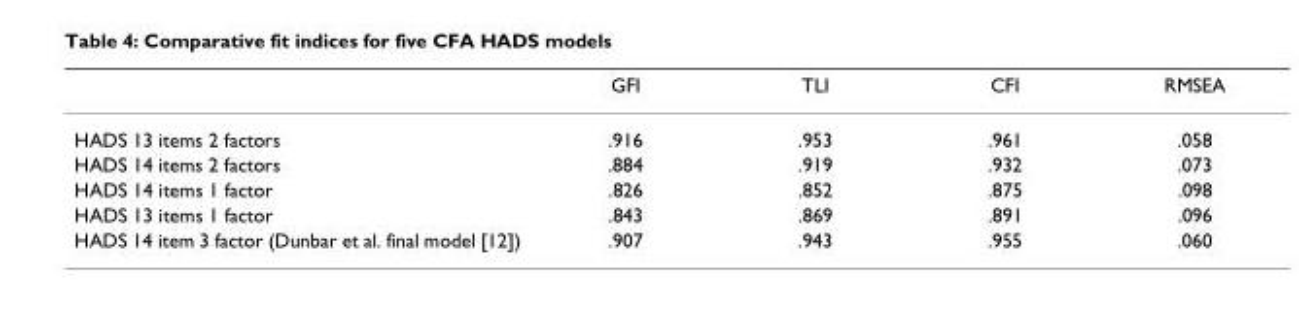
<table><thead><tr><td></td><td>GFI</td><td>TLI</td><td>CFI</td><td>RMSEA</td></tr></thead><tbody><tr><td>HADS 13 items 2 factors</td><td>.916</td><td>.953</td><td>.961</td><td>.058</td></tr><tr><td>HADS 14 items 2 factors</td><td>.884</td><td>.919</td><td>.932</td><td>.073</td></tr><tr><td>HADS 14 items 1 factor</td><td>.826</td><td>.852</td><td>.875</td><td>.098</td></tr><tr><td>HADS 13 items 1 factor</td><td>.843</td><td>.869</td><td>.891</td><td>.096</td></tr><tr><td>HADS 14 item 3 factor (Dunbar et al. final model [12])</td><td>.907</td><td>.943</td><td>.955</td><td>.060</td></tr></tbody></table>